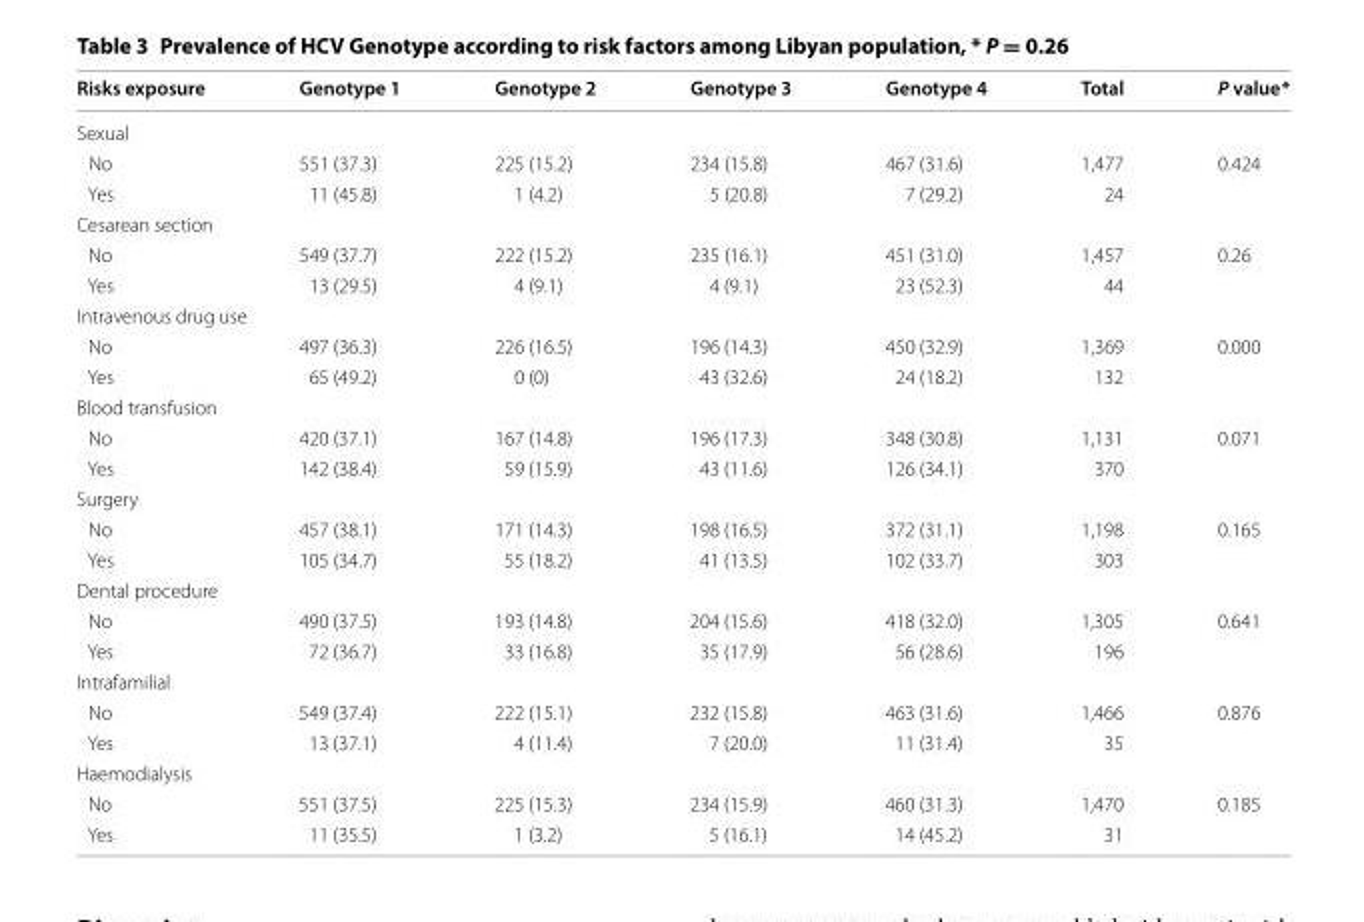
<table><thead><tr><td>Risks exposure</td><td>Genotype 1</td><td>Genotype 2</td><td>Genotype 3</td><td>Genotype 4</td><td>Total</td><td>P value*</td></tr></thead><tbody><tr><td colspan="7">Sexual</td></tr><tr><td>No</td><td>551 (37.3)</td><td>225 (15.2)</td><td>234 (15.8)</td><td>467 (31.6)</td><td>1,477</td><td rowspan="2">0.424</td></tr><tr><td>Yes</td><td>11 (45.8)</td><td>1 (4.2)</td><td>5 (20.8)</td><td>7 (29.2)</td><td>24</td></tr><tr><td colspan="7">Cesarean section</td></tr><tr><td>No</td><td>549 (37.7)</td><td>222 (15.2)</td><td>235 (16.1)</td><td>451 (31.0)</td><td>1,457</td><td rowspan="2">0.26</td></tr><tr><td>Yes</td><td>13 (29.5)</td><td>4 (9.1)</td><td>4 (9.1)</td><td>23 (52.3)</td><td>44</td></tr><tr><td colspan="7">Intravenous drug use</td></tr><tr><td>No</td><td>497 (36.3)</td><td>226 (16.5)</td><td>196 (14.3)</td><td>450 (32.9)</td><td>1,369</td><td rowspan="2">0.000</td></tr><tr><td>Yes</td><td>65 (49.2)</td><td>0 (0)</td><td>43 (32.6)</td><td>24 (18.2)</td><td>132</td></tr><tr><td colspan="7">Blood transfusion</td></tr><tr><td>No</td><td>420 (37.1)</td><td>167 (14.8)</td><td>196 (17.3)</td><td>348 (30.8)</td><td>1,131</td><td rowspan="2">0.071</td></tr><tr><td>Yes</td><td>142 (38.4)</td><td>59 (15.9)</td><td>43 (11.6)</td><td>126 (34.1)</td><td>370</td></tr><tr><td colspan="7">Surgery</td></tr><tr><td>No</td><td>457 (38.1)</td><td>171 (14.3)</td><td>198 (16.5)</td><td>372 (31.1)</td><td>1,198</td><td rowspan="2">0.165</td></tr><tr><td>Yes</td><td>105 (34.7)</td><td>55 (18.2)</td><td>41 (13.5)</td><td>102 (33.7)</td><td>303</td></tr><tr><td colspan="7">Dental procedure</td></tr><tr><td>No</td><td>490 (37.5)</td><td>193 (14.8)</td><td>204 (15.6)</td><td>418 (32.0)</td><td>1,305</td><td rowspan="2">0.641</td></tr><tr><td>Yes</td><td>72 (36.7)</td><td>33 (16.8)</td><td>35 (17.9)</td><td>56 (28.6)</td><td>196</td></tr><tr><td colspan="7">Intrafamilial</td></tr><tr><td>No</td><td>549 (37.4)</td><td>222 (15.1)</td><td>232 (15.8)</td><td>463 (31.6)</td><td>1,466</td><td rowspan="2">0.876</td></tr><tr><td>Yes</td><td>13 (37.1)</td><td>4 (11.4)</td><td>7 (20.0)</td><td>11 (31.4)</td><td>35</td></tr><tr><td colspan="7">Haemodialysis</td></tr><tr><td>No</td><td>551 (37.5)</td><td>225 (15.3)</td><td>234 (15.9)</td><td>460 (31.3)</td><td>1,470</td><td rowspan="2">0.185</td></tr><tr><td>Yes</td><td>11 (35.5)</td><td>1 (3.2)</td><td>5 (16.1)</td><td>14 (45.2)</td><td>31</td></tr></tbody></table>